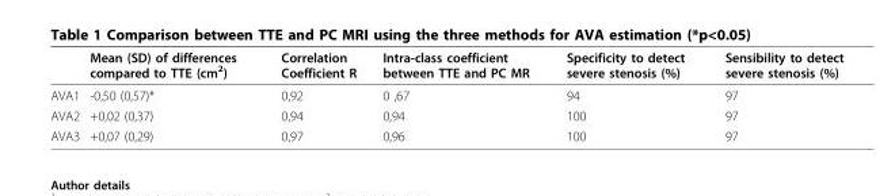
<table><thead><tr><td></td><td>Mean (SD) of differences compared to TTE (cm<sup>2</sup>)</td><td>Correlation Coefficient R</td><td>Intra-class coefficient between TTE and PC MR</td><td>Specificity to detect severe stenosis (%)</td><td>Sensibility to detect severe stenosis (%)</td></tr></thead><tbody><tr><td>AVA1</td><td>-0,50 (0,57)*</td><td>0,92</td><td>0 ,67</td><td>94</td><td>97</td></tr><tr><td>AVA2</td><td>+0,02 (0,37)</td><td>0,94</td><td>0,94</td><td>100</td><td>97</td></tr><tr><td>AVA3</td><td>+0,07 (0,29)</td><td>0,97</td><td>0,96</td><td>100</td><td>97</td></tr></tbody></table>